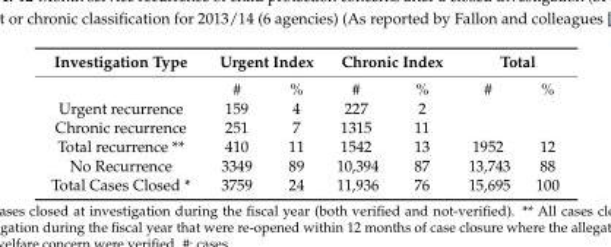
<table><thead><tr><td rowspan="2">Investigation Type</td><td colspan="2">Urgent Index</td><td colspan="2">Chronic Index</td><td colspan="2">Total</td></tr><tr><td>#</td><td>%</td><td>#</td><td>%</td><td>#</td><td>%</td></tr></thead><tbody><tr><td>Urgent recurrence</td><td>159</td><td>4</td><td>227</td><td>2</td><td></td><td></td></tr><tr><td>Chronic recurrence</td><td>251</td><td>7</td><td>1315</td><td>11</td><td></td><td></td></tr><tr><td>Total recurrence **</td><td>410</td><td>11</td><td>1542</td><td>13</td><td>1952</td><td>12</td></tr><tr><td>No Recurrence</td><td>3349</td><td>89</td><td>10,394</td><td>87</td><td>13,743</td><td>88</td></tr><tr><td>Total Cases Closed *</td><td>3759</td><td>24</td><td>11,936</td><td>76</td><td>15,695</td><td>100</td></tr></tbody></table>